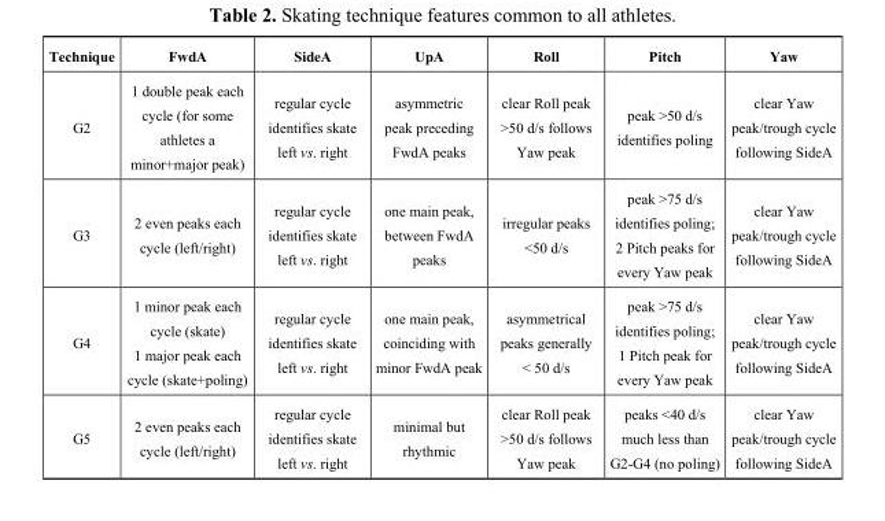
<table><thead><tr><td>Technique</td><td>FwdA</td><td>SideA</td><td>UpA</td><td>Roll</td><td>Pitch</td><td>Yaw</td></tr></thead><tbody><tr><td>G2</td><td>1 double peak each cycle (for some athletes a minor+major peak)</td><td>regular cycle identifies skate left vs. right</td><td>asymmetric peak preceding FwdA peaks</td><td>clear Roll peak &gt;50 d/s follows Yaw peak</td><td>peak &gt;50 d/s identifies poling</td><td>clear Yaw peak/trough cycle following SideA</td></tr><tr><td>G3</td><td>2 even peaks each cycle (left/right)</td><td>regular cycle identifies skate left vs. right</td><td>one main peak, between FwdA peaks</td><td>irregular peaks &lt;50 d/s</td><td>peak &gt;75 d/s identifies poling; 2 Pitch peaks for every Yaw peak</td><td>clear Yaw peak/trough cycle following SideA</td></tr><tr><td>G4</td><td>1 minor peak each cycle (skate) 1 major peak each cycle (skate+poling)</td><td>regular cycle identifies skate left vs. right</td><td>one main peak, coinciding with minor FwdA peak</td><td>asymmetrical peaks generally &lt; 50 d/s</td><td>peak &gt;75 d/s identifies poling; 1 Pitch peak for every Yaw peak</td><td>clear Yaw peak/trough cycle following SideA</td></tr><tr><td>G5</td><td>2 even peaks each cycle (left/right)</td><td>regular cycle identifies skate left vs. right</td><td>minimal but rhythmic</td><td>clear Roll peak &gt;50 d/s follows Yaw peak</td><td>peaks &lt;40 d/s much less than G2-G4 (no poling)</td><td>clear Yaw peak/trough cycle following SideA</td></tr></tbody></table>